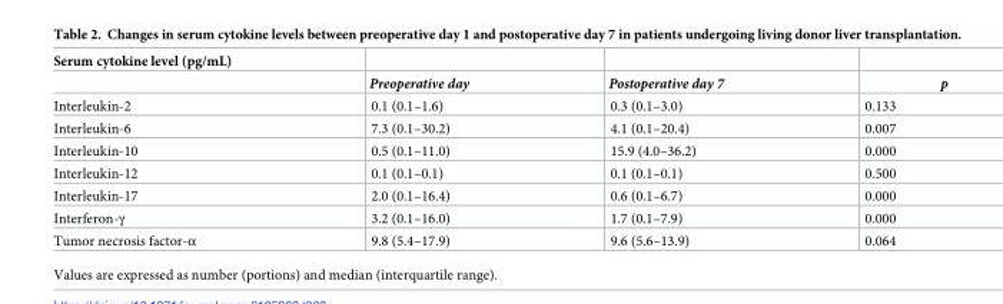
<table><thead><tr><td rowspan="2">Serum cytokine level (pg/mL)</td><td rowspan="2">Preoperative day</td><td rowspan="2">Postoperative day 7</td><td rowspan="2">p</td></tr><tr></tr></thead><tbody><tr><td>Interleukin-2</td><td>0.1 (0.1–1.6)</td><td>0.3 (0.1–3.0)</td><td>0.133</td></tr><tr><td>Interleukin-6</td><td>7.3 (0.1–30.2)</td><td>4.1 (0.1–20.4)</td><td>0.007</td></tr><tr><td>Interleukin-10</td><td>0.5 (0.1–11.0)</td><td>15.9 (4.0–36.2)</td><td>0.000</td></tr><tr><td>Interleukin-12</td><td>0.1 (0.1–0.1)</td><td>0.1 (0.1–0.1)</td><td>0.500</td></tr><tr><td>Interleukin-17</td><td>2.0 (0.1–16.4)</td><td>0.6 (0.1–6.7)</td><td>0.000</td></tr><tr><td>Interferon-γ</td><td>3.2 (0.1–16.0)</td><td>1.7 (0.1–7.9)</td><td>0.000</td></tr><tr><td>Tumor necrosis factor-α</td><td>9.8 (5.4–17.9)</td><td>9.6 (5.6–13.9)</td><td>0.064</td></tr></tbody></table>